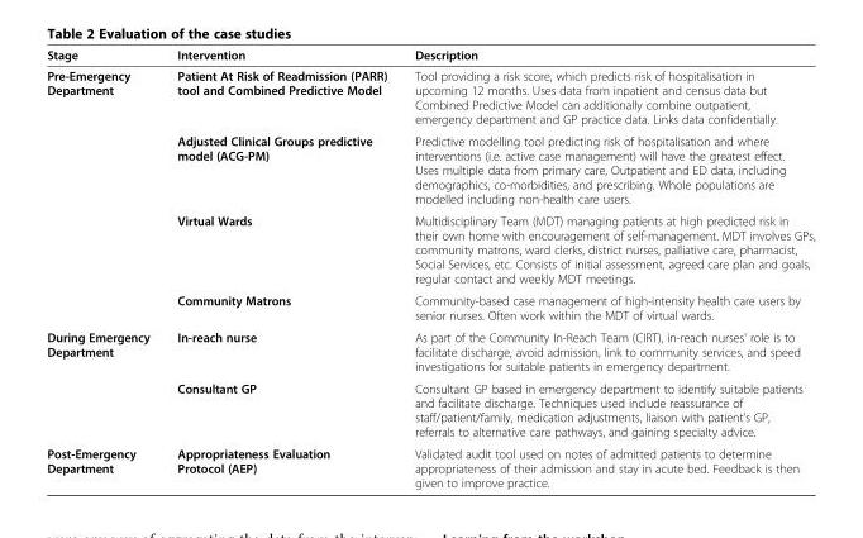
<table><thead><tr><td>Stage</td><td>Intervention</td><td>Description</td></tr></thead><tbody><tr><td rowspan="4">Pre-Emergency Department</td><td>Patient At Risk of Readmission (PARR) tool and Combined Predictive Model</td><td>Tool providing a risk score, which predicts risk of hospitalisation in upcoming 12 months. Uses data from inpatient and census data but Combined Predictive Model can additionally combine outpatient, emergency department and GP practice data. Links data confidentially.</td></tr><tr><td>Adjusted Clinical Groups predictive model (ACG-PM)</td><td>Predictive modelling tool predicting risk of hospitalisation and where interventions (i.e. active case management) will have the greatest effect. Uses multiple data from primary care, Outpatient and ED data, including demographics, co-morbidities, and prescribing. Whole populations are modelled including non-health care users.</td></tr><tr><td>Virtual Wards</td><td>Multidisciplinary Team (MDT) managing patients at high predicted risk in their own home with encouragement of self-management. MDT involves GPs, community matrons, ward clerks, district nurses, palliative care, pharmacist, Social Services, etc. Consists of initial assessment, agreed care plan and goals, regular contact and weekly MDT meetings.</td></tr><tr><td>Community Matrons</td><td>Community-based case management of high-intensity health care users by senior nurses. Often work within the MDT of virtual wards.</td></tr><tr><td rowspan="2">During Emergency Department</td><td>In-reach nurse</td><td>As part of the Community In-Reach Team (CIRT), in-reach nurses&#x27; role is to facilitate discharge, avoid admission, link to community services, and speed investigations for suitable patients in emergency department.</td></tr><tr><td>Consultant GP</td><td>Consultant GP based in emergency department to identify suitable patients and facilitate discharge. Techniques used include reassurance of staff/patient/family, medication adjustments, liaison with patient&#x27;s GP, referrals to alternative care pathways, and gaining specialty advice.</td></tr><tr><td>Post-Emergency Department</td><td>Appropriateness Evaluation Protocol (AEP)</td><td>Validated audit tool used on notes of admitted patients to determine appropriateness of their admission and stay in acute bed. Feedback is then given to improve practice.</td></tr></tbody></table>